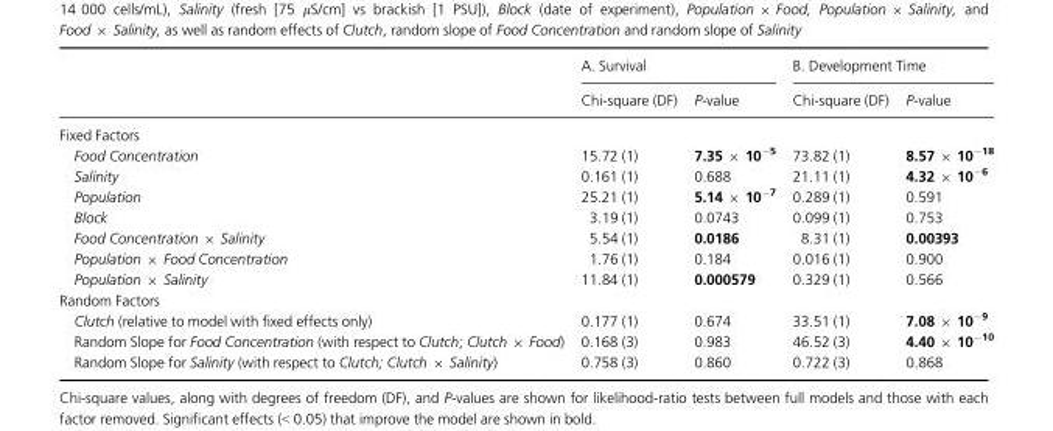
<table><thead><tr><td rowspan="2"></td><td colspan="2">A. Survival</td><td colspan="2">B. Development Time</td></tr><tr><td>Chi-square (DF)</td><td>P-value</td><td>Chi-square (DF)</td><td>P-value</td></tr></thead><tbody><tr><td colspan="5">Fixed Factors</td></tr><tr><td>Food Concentration</td><td>15.72 (1)</td><td>7.35 × 10<sup>−5</sup></td><td>73.82 (1)</td><td>8.57 × 10<sup>−18</sup></td></tr><tr><td>Salinity</td><td>0.161 (1)</td><td>0.688</td><td>21.11 (1)</td><td>4.32 × 10<sup>−6</sup></td></tr><tr><td>Population</td><td>25.21 (1)</td><td>5.14 × 10<sup>−7</sup></td><td>0.289 (1)</td><td>0.591</td></tr><tr><td>Block</td><td>3.19 (1)</td><td>0.0743</td><td>0.099 (1)</td><td>0.753</td></tr><tr><td>Food Concentration × Salinity</td><td>5.54 (1)</td><td>0.0186</td><td>8.31 (1)</td><td>0.00393</td></tr><tr><td>Population × Food Concentration</td><td>1.76 (1)</td><td>0.184</td><td>0.016 (1)</td><td>0.900</td></tr><tr><td>Population × Salinity</td><td>11.84 (1)</td><td>0.000579</td><td>0.329 (1)</td><td>0.566</td></tr><tr><td colspan="5">Random Factors</td></tr><tr><td>Clutch (relative to model with fixed effects only)</td><td>0.177 (1)</td><td>0.674</td><td>33.51 (1)</td><td>7.08 × 10<sup>−9</sup></td></tr><tr><td>Random Slope for Food Concentration (with respect to Clutch; Clutch × Food)</td><td>0.168 (3)</td><td>0.983</td><td>46.52 (3)</td><td>4.40 × 10<sup>−10</sup></td></tr><tr><td>Random Slope for Salinity (with respect to Clutch; Clutch × Salinity)</td><td>0.758 (3)</td><td>0.860</td><td>0.722 (3)</td><td>0.868</td></tr></tbody></table>